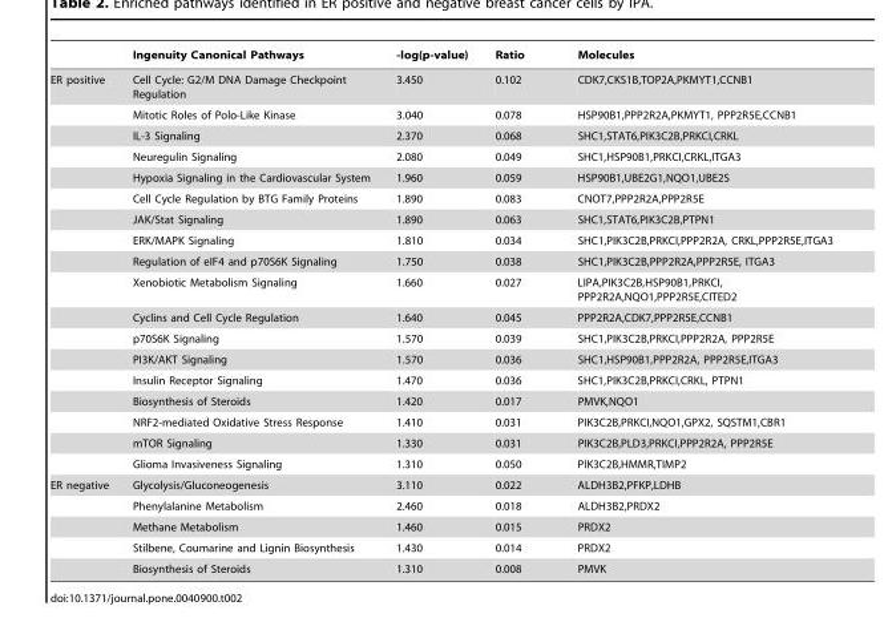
<table><thead><tr><td></td><td>Ingenuity Canonical Pathways</td><td>-log(p-value)</td><td>Ratio</td><td>Molecules</td></tr></thead><tbody><tr><td rowspan="18">ER positive</td><td>Cell Cycle: G2/M DNA Damage Checkpoint Regulation</td><td>3.450</td><td>0.102</td><td>CDK7,CKS1B,TOP2A,PKMYT1,CCNB1</td></tr><tr><td>Mitotic Roles of Polo-Like Kinase</td><td>3.040</td><td>0.078</td><td>HSP90B1,PPP2R2A,PKMYT1, PPP2R5E,CCNB1</td></tr><tr><td>IL-3 Signaling</td><td>2.370</td><td>0.068</td><td>SHC1,STAT6,PIK3C2B,PRKCI,CRKL</td></tr><tr><td>Neuregulin Signaling</td><td>2.080</td><td>0.049</td><td>SHC1,HSP90B1,PRKCI,CRKL,ITGA3</td></tr><tr><td>Hypoxia Signaling in the Cardiovascular System</td><td>1.960</td><td>0.059</td><td>HSP90B1,UBE2G1,NQO1,UBE2S</td></tr><tr><td>Cell Cycle Regulation by BTG Family Proteins</td><td>1.890</td><td>0.083</td><td>CNOT7,PPP2R2A,PPP2R5E</td></tr><tr><td>JAK/Stat Signaling</td><td>1.890</td><td>0.063</td><td>SHC1,STAT6,PIK3C2B,PTPN1</td></tr><tr><td>ERK/MAPK Signaling</td><td>1.810</td><td>0.034</td><td>SHC1,PIK3C2B,PRKCI,PPP2R2A, CRKL,PPP2R5E,ITGA3</td></tr><tr><td>Regulation of eIF4 and p70S6K Signaling</td><td>1.750</td><td>0.038</td><td>SHC1,PIK3C2B,PPP2R2A,PPP2R5E, ITGA3</td></tr><tr><td>Xenobiotic Metabolism Signaling</td><td>1.660</td><td>0.027</td><td>LIPA,PIK3C2B,HSP90B1,PRKCI, PPP2R2A,NQO1,PPP2R5E,CITED2</td></tr><tr><td>Cyclins and Cell Cycle Regulation</td><td>1.640</td><td>0.045</td><td>PPP2R2A,CDK7,PPP2R5E,CCNB1</td></tr><tr><td>p70S6K Signaling</td><td>1.570</td><td>0.039</td><td>SHC1,PIK3C2B,PRKCI,PPP2R2A, PPP2R5E</td></tr><tr><td>PI3K/AKT Signaling</td><td>1.570</td><td>0.036</td><td>SHC1,HSP90B1,PPP2R2A, PPP2R5E,ITGA3</td></tr><tr><td>Insulin Receptor Signaling</td><td>1.470</td><td>0.036</td><td>SHC1,PIK3C2B,PRKCI,CRKL, PTPN1</td></tr><tr><td>Biosynthesis of Steroids</td><td>1.420</td><td>0.017</td><td>PMVK,NQO1</td></tr><tr><td>NRF2-mediated Oxidative Stress Response</td><td>1.410</td><td>0.031</td><td>PIK3C2B,PRKCI,NQO1,GPX2, SQSTM1,CBR1</td></tr><tr><td>mTOR Signaling</td><td>1.330</td><td>0.031</td><td>PIK3C2B,PLD3,PRKCI,PPP2R2A, PPP2R5E</td></tr><tr><td>Glioma Invasiveness Signaling</td><td>1.310</td><td>0.050</td><td>PIK3C2B,HMMR,TIMP2</td></tr><tr><td rowspan="5">ER negative</td><td>Glycolysis/Gluconeogenesis</td><td>3.110</td><td>0.022</td><td>ALDH3B2,PFKP,LDHB</td></tr><tr><td>Phenylalanine Metabolism</td><td>2.460</td><td>0.018</td><td>ALDH3B2,PRDX2</td></tr><tr><td>Methane Metabolism</td><td>1.460</td><td>0.015</td><td>PRDX2</td></tr><tr><td>Stilbene, Coumarine and Lignin Biosynthesis</td><td>1.430</td><td>0.014</td><td>PRDX2</td></tr><tr><td>Biosynthesis of Steroids</td><td>1.310</td><td>0.008</td><td>PMVK</td></tr></tbody></table>